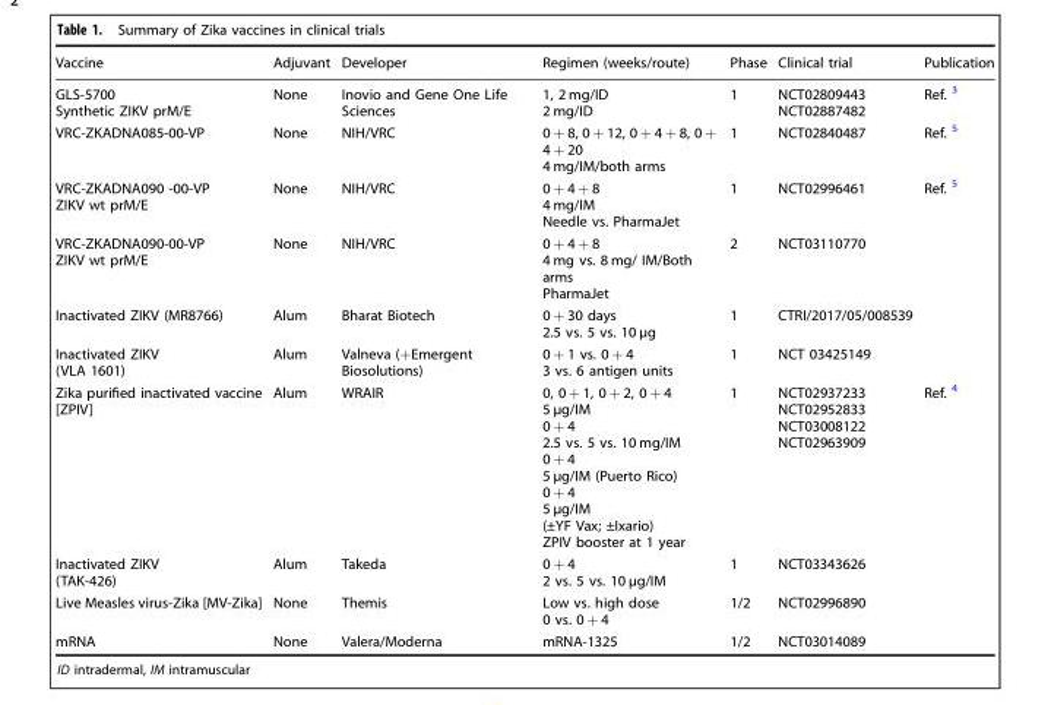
<table><thead><tr><td>Vaccine</td><td>Adjuvant</td><td>Developer</td><td>Regimen (weeks/route)</td><td>Phase</td><td>Clinical trial</td><td>Publication</td></tr></thead><tbody><tr><td>GLS-5700 Synthetic ZIKV prM/E</td><td>None</td><td>Inovio and Gene One Life Sciences</td><td>1, 2 mg/ID 2 mg/ID</td><td>1</td><td>NCT02809443 NCT02887482</td><td>Ref. <sup>3</sup></td></tr><tr><td>VRC-ZKADNA085-00-VP</td><td>None</td><td>NIH/VRC</td><td>0 + 8, 0 + 12, 0 + 4 + 8, 0 + 4 + 20 4 mg/IM/both arms</td><td>1</td><td>NCT02840487</td><td>Ref. <sup>5</sup></td></tr><tr><td>VRC-ZKADNA090 -00-VP ZIKV wt prM/E</td><td>None</td><td>NIH/VRC</td><td>0 + 4 + 8 4 mg/IM Needle vs. PharmaJet</td><td>1</td><td>NCT02996461</td><td>Ref. <sup>5</sup></td></tr><tr><td>VRC-ZKADNA090-00-VP ZIKV wt prM/E</td><td>None</td><td>NIH/VRC</td><td>0 + 4 + 8 4 mg vs. 8 mg/ IM/Both arms PharmaJet</td><td>2</td><td>NCT03110770</td><td></td></tr><tr><td>Inactivated ZIKV (MR8766)</td><td>Alum</td><td>Bharat Biotech</td><td>0 + 30 days 2.5 vs. 5 vs. 10 µg</td><td>1</td><td>CTRI/2017/05/008539</td><td></td></tr><tr><td>Inactivated ZIKV (VLA 1601)</td><td>Alum</td><td>Valneva (+Emergent Biosolutions)</td><td>0 + 1 vs. 0 + 4 3 vs. 6 antigen units</td><td>1</td><td>NCT 03425149</td><td></td></tr><tr><td>Zika purified inactivated vaccine [ZPIV]</td><td>Alum</td><td>WRAIR</td><td>0, 0 + 1, 0 + 2, 0 + 4 5 µg/IM 0 + 4 2.5 vs. 5 vs. 10 mg/IM 0 + 4 5 µg/IM (Puerto Rico) 0 + 4 5 µg/IM (±YF Vax; ±Ixario) ZPIV booster at 1 year</td><td>1</td><td>NCT02937233 NCT02952833 NCT03008122 NCT02963909</td><td>Ref. <sup>4</sup></td></tr><tr><td>Inactivated ZIKV (TAK-426)</td><td>Alum</td><td>Takeda</td><td>0 + 4 2 vs. 5 vs. 10 µg/IM</td><td>1</td><td>NCT03343626</td><td></td></tr><tr><td>Live Measles virus-Zika [MV-Zika]</td><td>None</td><td>Themis</td><td>Low vs. high dose 0 vs. 0 + 4</td><td>1/2</td><td>NCT02996890</td><td></td></tr><tr><td>mRNA</td><td>None</td><td>Valera/Moderna</td><td>mRNA-1325</td><td>1/2</td><td>NCT03014089</td><td></td></tr></tbody></table>